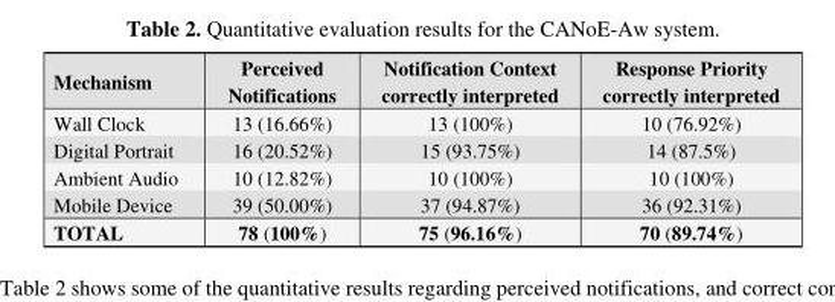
<table><thead><tr><td>Mechanism</td><td>Perceived Notifications</td><td>Notification Context correctly interpreted</td><td>Response Priority correctly interpreted</td></tr></thead><tbody><tr><td>Wall Clock</td><td>13 (16.66%)</td><td>13 (100%)</td><td>10 (76.92%)</td></tr><tr><td>Digital Portrait</td><td>16 (20.52%)</td><td>15 (93.75%)</td><td>14 (87.5%)</td></tr><tr><td>Ambient Audio</td><td>10 (12.82%)</td><td>10 (100%)</td><td>10 (100%)</td></tr><tr><td>Mobile Device</td><td>39 (50.00%)</td><td>37 (94.87%)</td><td>36 (92.31%)</td></tr><tr><td>TOTAL</td><td>78 (100%)</td><td>75 (96.16%)</td><td>70 (89.74%)</td></tr></tbody></table>